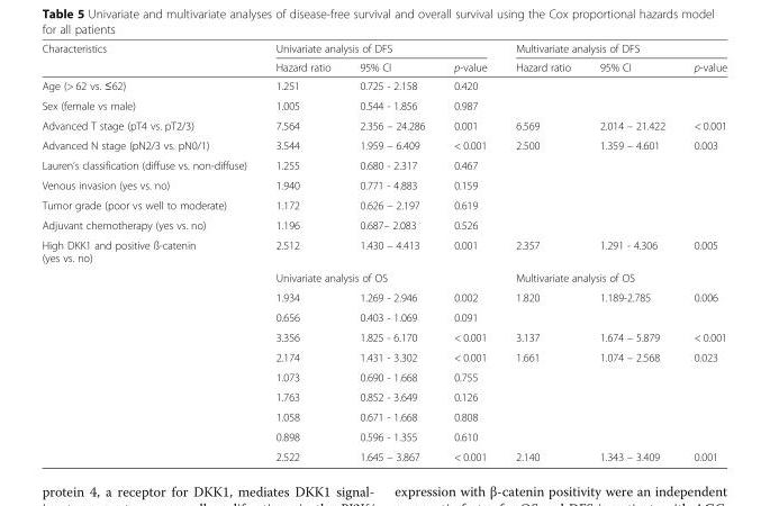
<table><thead><tr><td rowspan="2">Characteristics</td><td colspan="3">Univariate analysis of DFS</td><td colspan="3">Multivariate analysis of DFS</td></tr><tr><td>Hazard ratio</td><td>95% CI</td><td>p-value</td><td>Hazard ratio</td><td>95% CI</td><td>p-value</td></tr></thead><tbody><tr><td>Age (&gt; 62 vs. ≤62)</td><td>1.251</td><td>0.725 - 2.158</td><td>0.420</td><td></td><td></td><td></td></tr><tr><td>Sex (female vs male)</td><td>1.005</td><td>0.544 - 1.856</td><td>0.987</td><td></td><td></td><td></td></tr><tr><td>Advanced T stage (pT4 vs. pT2/3)</td><td>7.564</td><td>2.356 – 24.286</td><td>0.001</td><td>6.569</td><td>2.014 – 21.422</td><td>&lt; 0.001</td></tr><tr><td>Advanced N stage (pN2/3 vs. pN0/1)</td><td>3.544</td><td>1.959 – 6.409</td><td>&lt; 0.001</td><td>2.500</td><td>1.359 – 4.601</td><td>0.003</td></tr><tr><td>Lauren’s classification (diffuse vs. non-diffuse)</td><td>1.255</td><td>0.680 - 2.317</td><td>0.467</td><td></td><td></td><td></td></tr><tr><td>Venous invasion (yes vs. no)</td><td>1.940</td><td>0.771 - 4.883</td><td>0.159</td><td></td><td></td><td></td></tr><tr><td>Tumor grade (poor vs well to moderate)</td><td>1.172</td><td>0.626 – 2.197</td><td>0.619</td><td></td><td></td><td></td></tr><tr><td>Adjuvant chemotherapy (yes vs. no)</td><td>1.196</td><td>0.687– 2.083</td><td>0.526</td><td></td><td></td><td></td></tr><tr><td rowspan="11">High DKK1 and positive ß-catenin (yes vs. no)</td><td>2.512</td><td>1.430 – 4.413</td><td>0.001</td><td>2.357</td><td>1.291 - 4.306</td><td>0.005</td></tr><tr><td colspan="3">Univariate analysis of OS</td><td colspan="3">Multivariate analysis of OS</td></tr><tr><td>1.934</td><td>1.269 - 2.946</td><td>0.002</td><td>1.820</td><td>1.189-2.785</td><td>0.006</td></tr><tr><td>0.656</td><td>0.403 - 1.069</td><td>0.091</td><td></td><td></td><td></td></tr><tr><td>3.356</td><td>1.825 - 6.170</td><td>&lt; 0.001</td><td>3.137</td><td>1.674 – 5.879</td><td>&lt; 0.001</td></tr><tr><td>2.174</td><td>1.431 - 3.302</td><td>&lt; 0.001</td><td>1.661</td><td>1.074 – 2.568</td><td>0.023</td></tr><tr><td>1.073</td><td>0.690 - 1.668</td><td>0.755</td><td></td><td></td><td></td></tr><tr><td>1.763</td><td>0.852 - 3.649</td><td>0.126</td><td></td><td></td><td></td></tr><tr><td>1.058</td><td>0.671 - 1.668</td><td>0.808</td><td></td><td></td><td></td></tr><tr><td>0.898</td><td>0.596 - 1.355</td><td>0.610</td><td></td><td></td><td></td></tr><tr><td>2.522</td><td>1.645 – 3.867</td><td>&lt; 0.001</td><td>2.140</td><td>1.343 – 3.409</td><td>0.001</td></tr></tbody></table>